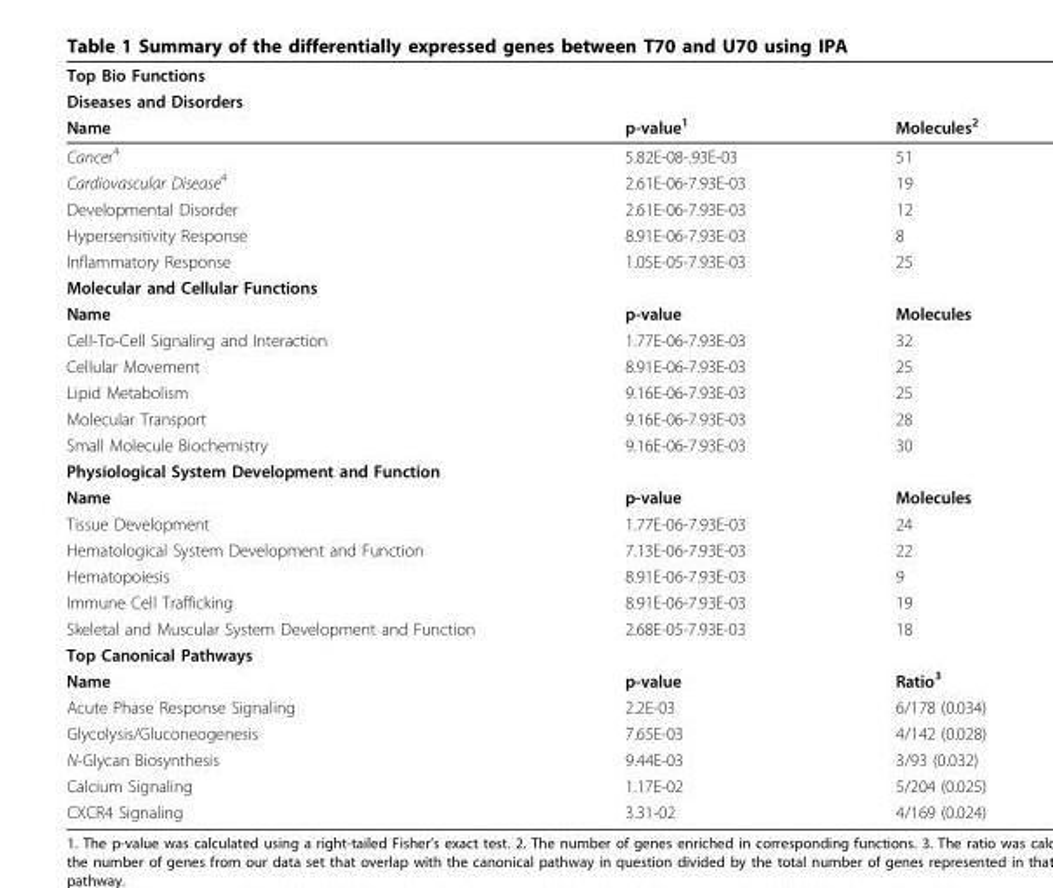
<table><thead><tr><td rowspan="3">Top Bio Functions Diseases and Disorders Name</td><td rowspan="3">p-value<sup>1</sup></td><td rowspan="3">Molecules<sup>2</sup></td></tr><tr></tr><tr></tr></thead><tbody><tr><td>Cancer<sup>4</sup></td><td>5.82E-08-.93E-03</td><td>51</td></tr><tr><td>Cardiovascular Disease<sup>4</sup></td><td>2.61E-06-7.93E-03</td><td>19</td></tr><tr><td>Developmental Disorder</td><td>2.61E-06-7.93E-03</td><td>12</td></tr><tr><td>Hypersensitivity Response</td><td>8.91E-06-7.93E-03</td><td>8</td></tr><tr><td>Inflammatory Response</td><td>1.05E-05-7.93E-03</td><td>25</td></tr><tr><td colspan="3">Molecular and Cellular Functions</td></tr><tr><td>Name</td><td>p-value</td><td>Molecules</td></tr><tr><td>Cell-To-Cell Signaling and Interaction</td><td>1.77E-06-7.93E-03</td><td>32</td></tr><tr><td>Cellular Movement</td><td>8.91E-06-7.93E-03</td><td>25</td></tr><tr><td>Lipid Metabolism</td><td>9.16E-06-7.93E-03</td><td>25</td></tr><tr><td>Molecular Transport</td><td>9.16E-06-7.93E-03</td><td>28</td></tr><tr><td>Small Molecule Biochemistry</td><td>9.16E-06-7.93E-03</td><td>30</td></tr><tr><td colspan="3">Physiological System Development and Function</td></tr><tr><td>Name</td><td>p-value</td><td>Molecules</td></tr><tr><td>Tissue Development</td><td>1.77E-06-7.93E-03</td><td>24</td></tr><tr><td>Hematological System Development and Function</td><td>7.13E-06-7.93E-03</td><td>22</td></tr><tr><td>Hematopoiesis</td><td>8.91E-06-7.93E-03</td><td>9</td></tr><tr><td>Immune Cell Trafficking</td><td>8.91E-06-7.93E-03</td><td>19</td></tr><tr><td>Skeletal and Muscular System Development and Function</td><td>2.68E-05-7.93E-03</td><td>18</td></tr><tr><td colspan="3">Top Canonical Pathways</td></tr><tr><td>Name</td><td>p-value</td><td>Ratio<sup>3</sup></td></tr><tr><td>Acute Phase Response Signaling</td><td>2.2E-03</td><td>6/178 (0.034)</td></tr><tr><td>Glycolysis/Gluconeogenesis</td><td>7.65E-03</td><td>4/142 (0.028)</td></tr><tr><td>N-Glycan Biosynthesis</td><td>9.44E-03</td><td>3/93 (0.032)</td></tr><tr><td>Calcium Signaling</td><td>1.17E-02</td><td>5/204 (0.025)</td></tr><tr><td>CXCR4 Signaling</td><td>3.31-02</td><td>4/169 (0.024)</td></tr></tbody></table>